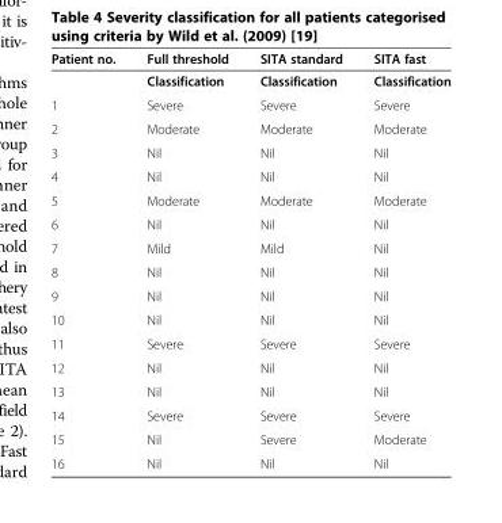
<table><thead><tr><td>Patient no.</td><td>Full threshold</td><td>SITA standard</td><td>SITA fast</td></tr></thead><tbody><tr><td></td><td>Classification</td><td>Classification</td><td>Classification</td></tr><tr><td>1</td><td>Severe</td><td>Severe</td><td>Severe</td></tr><tr><td>2</td><td>Moderate</td><td>Moderate</td><td>Moderate</td></tr><tr><td>3</td><td>Nil</td><td>Nil</td><td>Nil</td></tr><tr><td>4</td><td>Nil</td><td>Nil</td><td>Nil</td></tr><tr><td>5</td><td>Moderate</td><td>Moderate</td><td>Moderate</td></tr><tr><td>6</td><td>Nil</td><td>Nil</td><td>Nil</td></tr><tr><td>7</td><td>Mild</td><td>Mild</td><td>Nil</td></tr><tr><td>8</td><td>Nil</td><td>Nil</td><td>Nil</td></tr><tr><td>9</td><td>Nil</td><td>Nil</td><td>Nil</td></tr><tr><td>10</td><td>Nil</td><td>Nil</td><td>Nil</td></tr><tr><td>11</td><td>Severe</td><td>Severe</td><td>Severe</td></tr><tr><td>12</td><td>Nil</td><td>Nil</td><td>Nil</td></tr><tr><td>13</td><td>Nil</td><td>Nil</td><td>Nil</td></tr><tr><td>14</td><td>Severe</td><td>Severe</td><td>Severe</td></tr><tr><td>15</td><td>Nil</td><td>Severe</td><td>Moderate</td></tr><tr><td>16</td><td>Nil</td><td>Nil</td><td>Nil</td></tr></tbody></table>